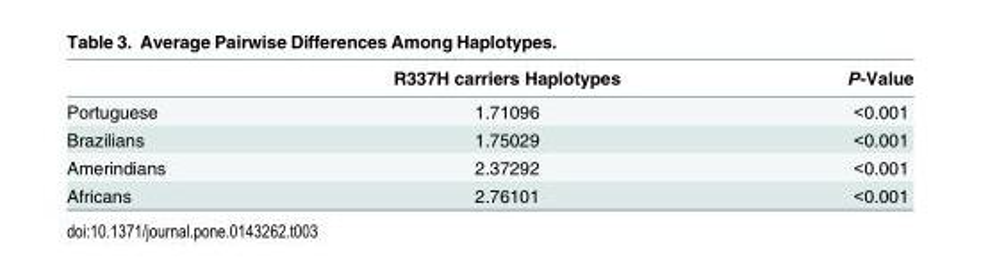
<table><thead><tr><td></td><td>R337H carriers Haplotypes</td><td>P-Value</td></tr></thead><tbody><tr><td>Portuguese</td><td>1.71096</td><td>&lt;0.001</td></tr><tr><td>Brazilians</td><td>1.75029</td><td>&lt;0.001</td></tr><tr><td>Amerindians</td><td>2.37292</td><td>&lt;0.001</td></tr><tr><td>Africans</td><td>2.76101</td><td>&lt;0.001</td></tr></tbody></table>